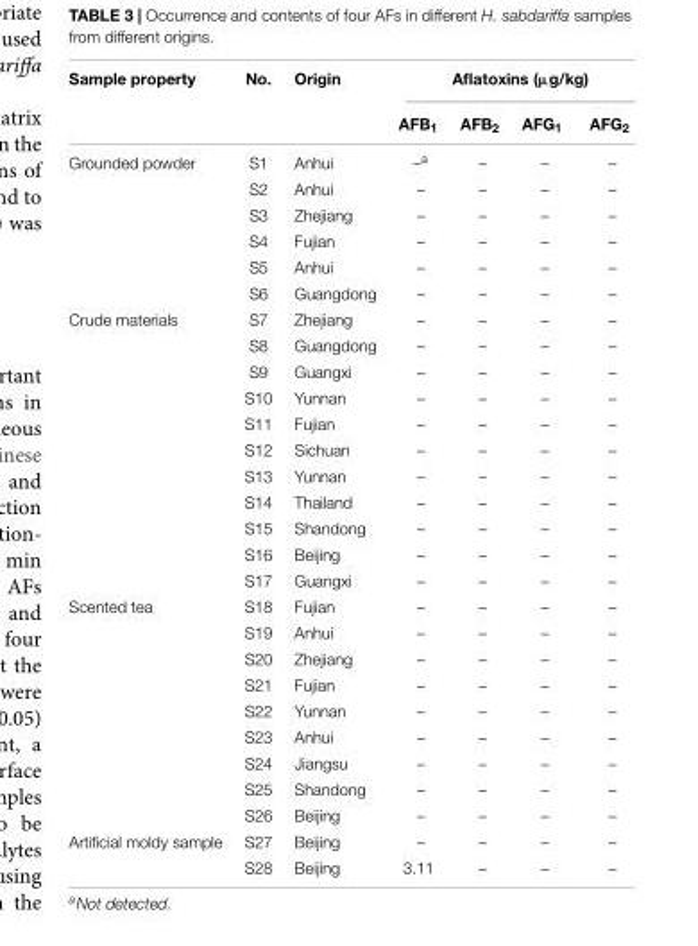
<table><thead><tr><td rowspan="2">Sample property</td><td rowspan="2">No.</td><td rowspan="2">Origin</td><td colspan="4">Aflatoxins (µg/kg)</td></tr><tr><td>AFB<sub>1</sub></td><td>AFB<sub>2</sub></td><td>AFG<sub>1</sub></td><td>AFG<sub>2</sub></td></tr></thead><tbody><tr><td rowspan="6">Grounded powder</td><td>S1</td><td>Anhui</td><td>–<sup>a</sup></td><td>–</td><td>–</td><td>–</td></tr><tr><td>S2</td><td>Anhui</td><td>–</td><td>–</td><td>–</td><td>–</td></tr><tr><td>S3</td><td>Zhejiang</td><td>–</td><td>–</td><td>–</td><td>–</td></tr><tr><td>S4</td><td>Fujian</td><td>–</td><td>–</td><td>–</td><td>–</td></tr><tr><td>S5</td><td>Anhui</td><td>–</td><td>–</td><td>–</td><td>–</td></tr><tr><td>S6</td><td>Guangdong</td><td>–</td><td>–</td><td>–</td><td>–</td></tr><tr><td rowspan="11">Crude materials</td><td>S7</td><td>Zhejiang</td><td>–</td><td>–</td><td>–</td><td>–</td></tr><tr><td>S8</td><td>Guangdong</td><td>–</td><td>–</td><td>–</td><td>–</td></tr><tr><td>S9</td><td>Guangxi</td><td>–</td><td>–</td><td>–</td><td>–</td></tr><tr><td>S10</td><td>Yunnan</td><td>–</td><td>–</td><td>–</td><td>–</td></tr><tr><td>S11</td><td>Fujian</td><td>–</td><td>–</td><td>–</td><td>–</td></tr><tr><td>S12</td><td>Sichuan</td><td>–</td><td>–</td><td>–</td><td>–</td></tr><tr><td>S13</td><td>Yunnan</td><td>–</td><td>–</td><td>–</td><td>–</td></tr><tr><td>S14</td><td>Thailand</td><td>–</td><td>–</td><td>–</td><td>–</td></tr><tr><td>S15</td><td>Shandong</td><td>–</td><td>–</td><td>–</td><td>–</td></tr><tr><td>S16</td><td>Beijing</td><td>–</td><td>–</td><td>–</td><td>–</td></tr><tr><td>S17</td><td>Guangxi</td><td>–</td><td>–</td><td>–</td><td>–</td></tr><tr><td rowspan="9">Scented tea</td><td>S18</td><td>Fujian</td><td>–</td><td>–</td><td>–</td><td>–</td></tr><tr><td>S19</td><td>Anhui</td><td>–</td><td>–</td><td>–</td><td>–</td></tr><tr><td>S20</td><td>Zhejiang</td><td>–</td><td>–</td><td>–</td><td>–</td></tr><tr><td>S21</td><td>Fujian</td><td>–</td><td>–</td><td>–</td><td>–</td></tr><tr><td>S22</td><td>Yunnan</td><td>–</td><td>–</td><td>–</td><td>–</td></tr><tr><td>S23</td><td>Anhui</td><td>–</td><td>–</td><td>–</td><td>–</td></tr><tr><td>S24</td><td>Jiangsu</td><td>–</td><td>–</td><td>–</td><td>–</td></tr><tr><td>S25</td><td>Shandong</td><td>–</td><td>–</td><td>–</td><td>–</td></tr><tr><td>S26</td><td>Beijing</td><td>–</td><td>–</td><td>–</td><td>–</td></tr><tr><td rowspan="2">Artificial moldy sample</td><td>S27</td><td>Beijing</td><td>–</td><td>–</td><td>–</td><td>–</td></tr><tr><td>S28</td><td>Beijing</td><td>3.11</td><td>–</td><td>–</td><td>–</td></tr></tbody></table>